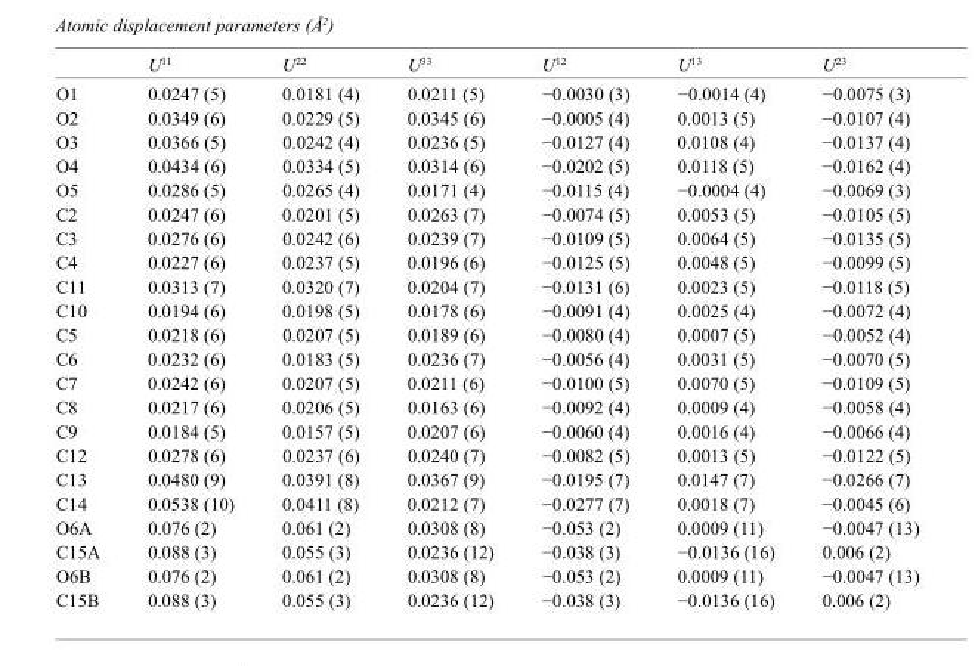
<table><thead><tr><td></td><td>U<sup>11</sup></td><td>U<sup>22</sup></td><td>U<sup>33</sup></td><td>U<sup>12</sup></td><td>U<sup>13</sup></td><td>U<sup>23</sup></td></tr></thead><tbody><tr><td>O1</td><td>0.0247 (5)</td><td>0.0181 (4)</td><td>0.0211 (5)</td><td>−0.0030 (3)</td><td>−0.0014 (4)</td><td>−0.0075 (3)</td></tr><tr><td>O2</td><td>0.0349 (6)</td><td>0.0229 (5)</td><td>0.0345 (6)</td><td>−0.0005 (4)</td><td>0.0013 (5)</td><td>−0.0107 (4)</td></tr><tr><td>O3</td><td>0.0366 (5)</td><td>0.0242 (4)</td><td>0.0236 (5)</td><td>−0.0127 (4)</td><td>0.0108 (4)</td><td>−0.0137 (4)</td></tr><tr><td>O4</td><td>0.0434 (6)</td><td>0.0334 (5)</td><td>0.0314 (6)</td><td>−0.0202 (5)</td><td>0.0118 (5)</td><td>−0.0162 (4)</td></tr><tr><td>O5</td><td>0.0286 (5)</td><td>0.0265 (4)</td><td>0.0171 (4)</td><td>−0.0115 (4)</td><td>−0.0004 (4)</td><td>−0.0069 (3)</td></tr><tr><td>C2</td><td>0.0247 (6)</td><td>0.0201 (5)</td><td>0.0263 (7)</td><td>−0.0074 (5)</td><td>0.0053 (5)</td><td>−0.0105 (5)</td></tr><tr><td>C3</td><td>0.0276 (6)</td><td>0.0242 (6)</td><td>0.0239 (7)</td><td>−0.0109 (5)</td><td>0.0064 (5)</td><td>−0.0135 (5)</td></tr><tr><td>C4</td><td>0.0227 (6)</td><td>0.0237 (5)</td><td>0.0196 (6)</td><td>−0.0125 (5)</td><td>0.0048 (5)</td><td>−0.0099 (5)</td></tr><tr><td>C11</td><td>0.0313 (7)</td><td>0.0320 (7)</td><td>0.0204 (7)</td><td>−0.0131 (6)</td><td>0.0023 (5)</td><td>−0.0118 (5)</td></tr><tr><td>C10</td><td>0.0194 (6)</td><td>0.0198 (5)</td><td>0.0178 (6)</td><td>−0.0091 (4)</td><td>0.0025 (4)</td><td>−0.0072 (4)</td></tr><tr><td>C5</td><td>0.0218 (6)</td><td>0.0207 (5)</td><td>0.0189 (6)</td><td>−0.0080 (4)</td><td>0.0007 (5)</td><td>−0.0052 (4)</td></tr><tr><td>C6</td><td>0.0232 (6)</td><td>0.0183 (5)</td><td>0.0236 (7)</td><td>−0.0056 (4)</td><td>0.0031 (5)</td><td>−0.0070 (5)</td></tr><tr><td>C7</td><td>0.0242 (6)</td><td>0.0207 (5)</td><td>0.0211 (6)</td><td>−0.0100 (5)</td><td>0.0070 (5)</td><td>−0.0109 (5)</td></tr><tr><td>C8</td><td>0.0217 (6)</td><td>0.0206 (5)</td><td>0.0163 (6)</td><td>−0.0092 (4)</td><td>0.0009 (4)</td><td>−0.0058 (4)</td></tr><tr><td>C9</td><td>0.0184 (5)</td><td>0.0157 (5)</td><td>0.0207 (6)</td><td>−0.0060 (4)</td><td>0.0016 (4)</td><td>−0.0066 (4)</td></tr><tr><td>C12</td><td>0.0278 (6)</td><td>0.0237 (6)</td><td>0.0240 (7)</td><td>−0.0082 (5)</td><td>0.0013 (5)</td><td>−0.0122 (5)</td></tr><tr><td>C13</td><td>0.0480 (9)</td><td>0.0391 (8)</td><td>0.0367 (9)</td><td>−0.0195 (7)</td><td>0.0147 (7)</td><td>−0.0266 (7)</td></tr><tr><td>C14</td><td>0.0538 (10)</td><td>0.0411 (8)</td><td>0.0212 (7)</td><td>−0.0277 (7)</td><td>0.0018 (7)</td><td>−0.0045 (6)</td></tr><tr><td>O6A</td><td>0.076 (2)</td><td>0.061 (2)</td><td>0.0308 (8)</td><td>−0.053 (2)</td><td>0.0009 (11)</td><td>−0.0047 (13)</td></tr><tr><td>C15A</td><td>0.088 (3)</td><td>0.055 (3)</td><td>0.0236 (12)</td><td>−0.038 (3)</td><td>−0.0136 (16)</td><td>0.006 (2)</td></tr><tr><td>O6B</td><td>0.076 (2)</td><td>0.061 (2)</td><td>0.0308 (8)</td><td>−0.053 (2)</td><td>0.0009 (11)</td><td>−0.0047 (13)</td></tr><tr><td>C15B</td><td>0.088 (3)</td><td>0.055 (3)</td><td>0.0236 (12)</td><td>−0.038 (3)</td><td>−0.0136 (16)</td><td>0.006 (2)</td></tr></tbody></table>